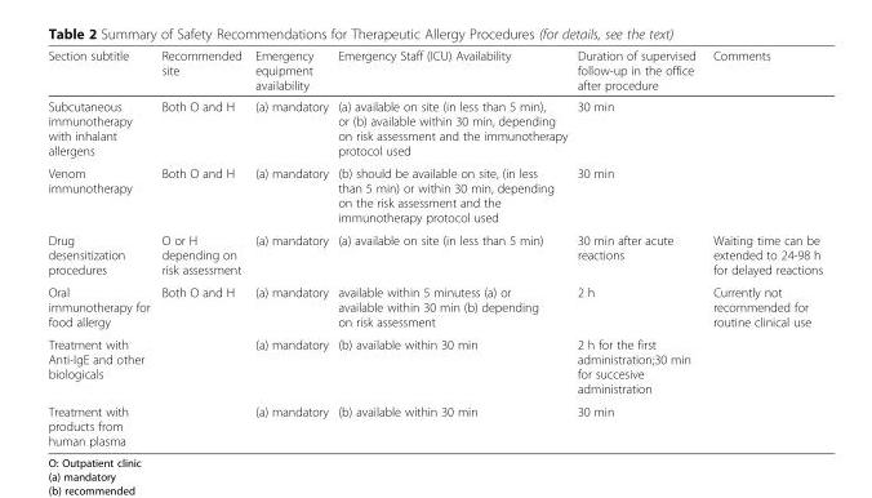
<table><thead><tr><td>Section subtitle</td><td>Recommended site</td><td>Emergency equipment availability</td><td>Emergency Staff (ICU) Availability</td><td>Duration of supervised follow-up in the office after procedure</td><td>Comments</td></tr></thead><tbody><tr><td>Subcutaneous immunotherapy with inhalant allergens</td><td>Both O and H</td><td>(a) mandatory</td><td>(a) available on site (in less than 5 min), or (b) available within 30 min, depending on risk assessment and the immunotherapy protocol used</td><td>30 min</td><td></td></tr><tr><td>Venom immunotherapy</td><td>Both O and H</td><td>(a) mandatory</td><td>(b) should be available on site, (in less than 5 min) or within 30 min, depending on the risk assessment and the immunotherapy protocol used</td><td>30 min</td><td></td></tr><tr><td>Drug desensitization procedures</td><td>O or H depending on risk assessment</td><td>(a) mandatory</td><td>(a) available on site (in less than 5 min)</td><td>30 min after acute reactions</td><td>Waiting time can be extended to 24-98 h for delayed reactions</td></tr><tr><td>Oral immunotherapy for food allergy</td><td>Both O and H</td><td>(a) mandatory</td><td>available within 5 minutess (a) or available within 30 min (b) depending on risk assessment</td><td>2 h</td><td>Currently not recommended for routine clinical use</td></tr><tr><td>Treatment with Anti-IgE and other biologicals</td><td></td><td>(a) mandatory</td><td>(b) available within 30 min</td><td>2 h for the first administration;30 min for succesive administration</td><td></td></tr><tr><td>Treatment with products from human plasma</td><td></td><td>(a) mandatory</td><td>(b) available within 30 min</td><td>30 min</td><td></td></tr></tbody></table>